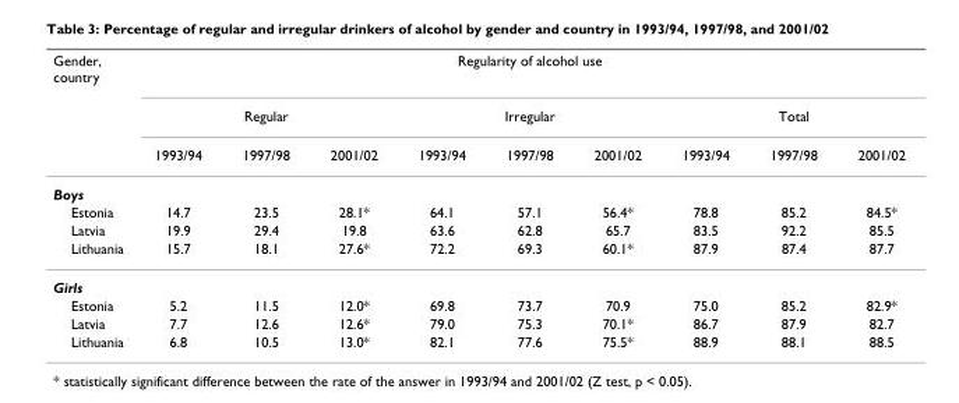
<table><thead><tr><td rowspan="3">Gender, country</td><td colspan="9">Regularity of alcohol use</td></tr><tr><td colspan="3">Regular</td><td colspan="3">Irregular</td><td colspan="3">Total</td></tr><tr><td>1993/94</td><td>1997/98</td><td>2001/02</td><td>1993/94</td><td>1997/98</td><td>2001/02</td><td>1993/94</td><td>1997/98</td><td>2001/02</td></tr></thead><tbody><tr><td colspan="10">Boys</td></tr><tr><td>Estonia</td><td>14.7</td><td>23.5</td><td>28.1*</td><td>64.1</td><td>57.1</td><td>56.4*</td><td>78.8</td><td>85.2</td><td>84.5*</td></tr><tr><td>Latvia</td><td>19.9</td><td>29.4</td><td>19.8</td><td>63.6</td><td>62.8</td><td>65.7</td><td>83.5</td><td>92.2</td><td>85.5</td></tr><tr><td>Lithuania</td><td>15.7</td><td>18.1</td><td>27.6*</td><td>72.2</td><td>69.3</td><td>60.1*</td><td>87.9</td><td>87.4</td><td>87.7</td></tr><tr><td colspan="10">Girls</td></tr><tr><td>Estonia</td><td>5.2</td><td>11.5</td><td>12.0*</td><td>69.8</td><td>73.7</td><td>70.9</td><td>75.0</td><td>85.2</td><td>82.9*</td></tr><tr><td>Latvia</td><td>7.7</td><td>12.6</td><td>12.6*</td><td>79.0</td><td>75.3</td><td>70.1*</td><td>86.7</td><td>87.9</td><td>82.7</td></tr><tr><td>Lithuania</td><td>6.8</td><td>10.5</td><td>13.0*</td><td>82.1</td><td>77.6</td><td>75.5*</td><td>88.9</td><td>88.1</td><td>88.5</td></tr></tbody></table>